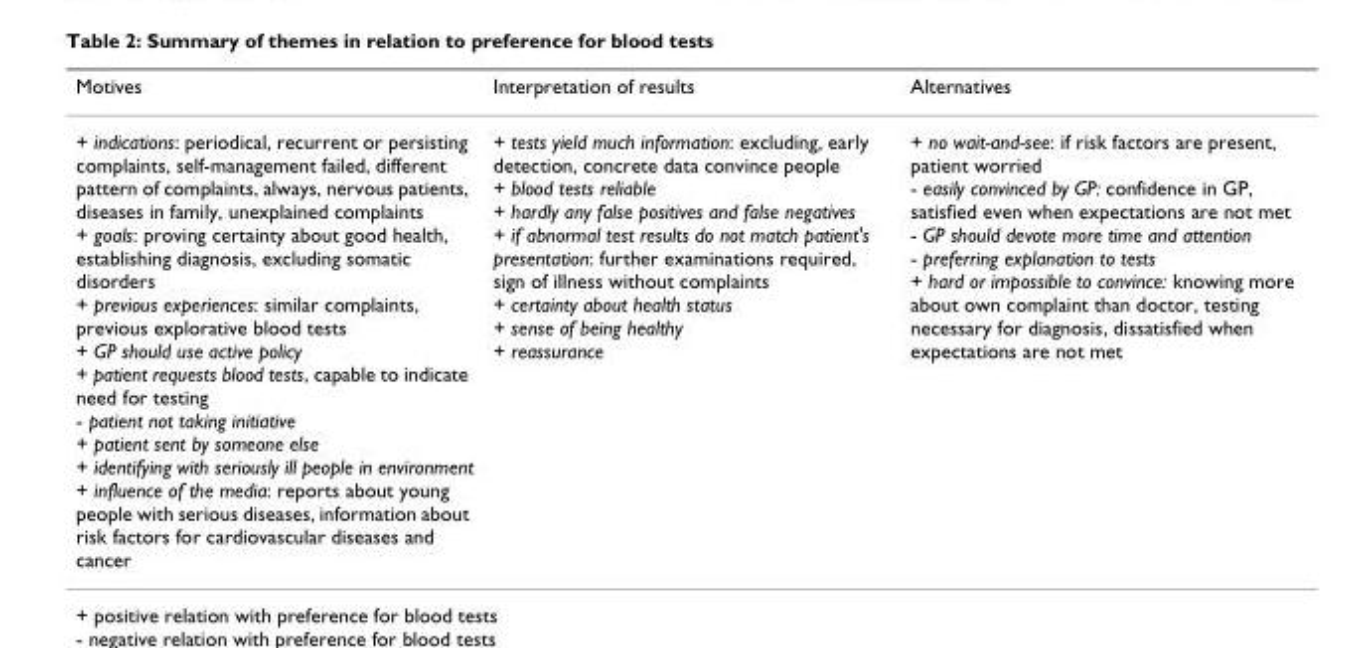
<table><thead><tr><td>Motives</td><td>Interpretation of results</td><td>Alternatives</td></tr></thead><tbody><tr><td>+ indications: periodical, recurrent or persisting complaints, self-management failed, different pattern of complaints, always, nervous patients, diseases in family, unexplained complaints + goals: proving certainty about good health, establishing diagnosis, excluding somatic disorders + previous experiences: similar complaints, previous explorative blood tests + GP should use active policy + patient requests blood tests, capable to indicate need for testing - patient not taking initiative + patient sent by someone else + identifying with seriously ill people in environment + influence of the media: reports about young people with serious diseases, information about risk factors for cardiovascular diseases and cancer</td><td>+ tests yield much information: excluding, early detection, concrete data convince people + blood tests reliable + hardly any false positives and false negatives + if abnormal test results do not match patient&#x27;s presentation: further examinations required, sign of illness without complaints + certainty about health status + sense of being healthy + reassurance</td><td>+ no wait-and-see: if risk factors are present, patient worried - easily convinced by GP: confidence in GP, satisfied even when expectations are not met - GP should devote more time and attention - preferring explanation to tests + hard or impossible to convince: knowing more about own complaint than doctor, testing necessary for diagnosis, dissatisfied when expectations are not met</td></tr></tbody></table>